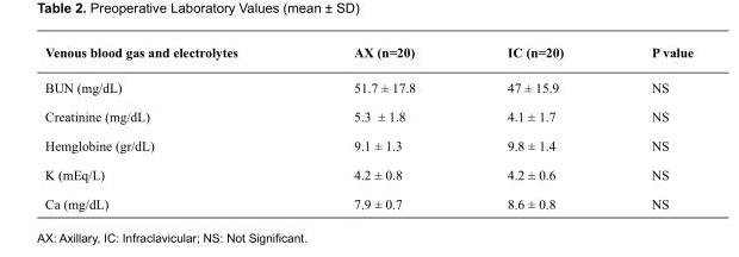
<table><thead><tr><td>Venous blood gas and electrolytes</td><td>AX (n=20)</td><td>IC (n=20)</td><td>P value</td></tr></thead><tbody><tr><td>BUN (mg/dL)</td><td>51.7 ± 17.8</td><td>47 ± 15.9</td><td>NS</td></tr><tr><td>Creatinine (mg/dL)</td><td>5.3 ± 1.8</td><td>4.1 ± 1.7</td><td>NS</td></tr><tr><td>Hemglobine (gr/dL)</td><td>9.1 ± 1.3</td><td>9.8 ± 1.4</td><td>NS</td></tr><tr><td>K (mEq/L)</td><td>4.2 ± 0.8</td><td>4.2 ± 0.6</td><td>NS</td></tr><tr><td>Ca (mg/dL)</td><td>7.9 ± 0.7</td><td>8.6 ± 0.8</td><td>NS</td></tr></tbody></table>